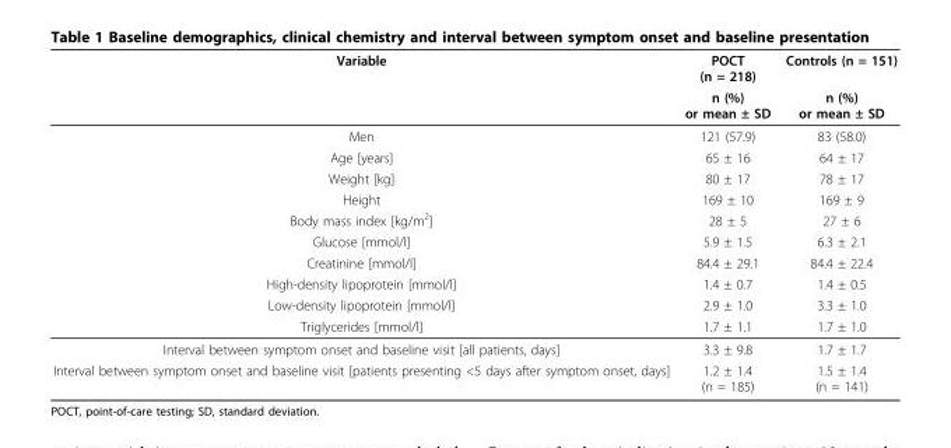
<table><thead><tr><td rowspan="2">Variable</td><td rowspan="2">POCT (n = 218) n (%) or mean ± SD</td><td rowspan="2">Controls (n = 151) n (%) or mean ± SD</td></tr><tr></tr></thead><tbody><tr><td>Men</td><td>121 (57.9)</td><td>83 (58.0)</td></tr><tr><td>Age [years]</td><td>65 ± 16</td><td>64 ± 17</td></tr><tr><td>Weight [kg]</td><td>80 ± 17</td><td>78 ± 17</td></tr><tr><td>Height</td><td>169 ± 10</td><td>169 ± 9</td></tr><tr><td>Body mass index [kg/m<sup>2</sup>]</td><td>28 ± 5</td><td>27 ± 6</td></tr><tr><td>Glucose [mmol/l]</td><td>5.9 ± 1.5</td><td>6.3 ± 2.1</td></tr><tr><td>Creatinine [mmol/l]</td><td>84.4 ± 29.1</td><td>84.4 ± 22.4</td></tr><tr><td>High-density lipoprotein [mmol/l]</td><td>1.4 ± 0.7</td><td>1.4 ± 0.5</td></tr><tr><td>Low-density lipoprotein [mmol/l]</td><td>2.9 ± 1.0</td><td>3.3 ± 1.0</td></tr><tr><td>Triglycerides [mmol/l]</td><td>1.7 ± 1.1</td><td>1.7 ± 1.0</td></tr><tr><td>Interval between symptom onset and baseline visit [all patients, days]</td><td>3.3 ± 9.8</td><td>1.7 ± 1.7</td></tr><tr><td>Interval between symptom onset and baseline visit [patients presenting &lt;5 days after symptom onset, days]</td><td>1.2 ± 1.4 (n = 185)</td><td>1.5 ± 1.4 (n = 141)</td></tr></tbody></table>